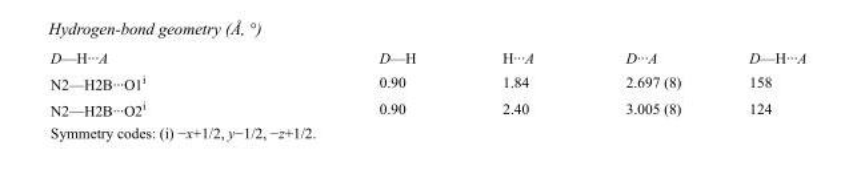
<table><tbody><tr><td>D—H···A</td><td>D—H</td><td>H···A</td><td>D···A</td><td>D—H···A</td></tr><tr><td>N2—H2B···O1<sup>i</sup></td><td>0.90</td><td>1.84</td><td>2.697 (8)</td><td>158</td></tr><tr><td>N2—H2B···O2<sup>i</sup></td><td>0.90</td><td>2.40</td><td>3.005 (8)</td><td>124</td></tr></tbody></table>